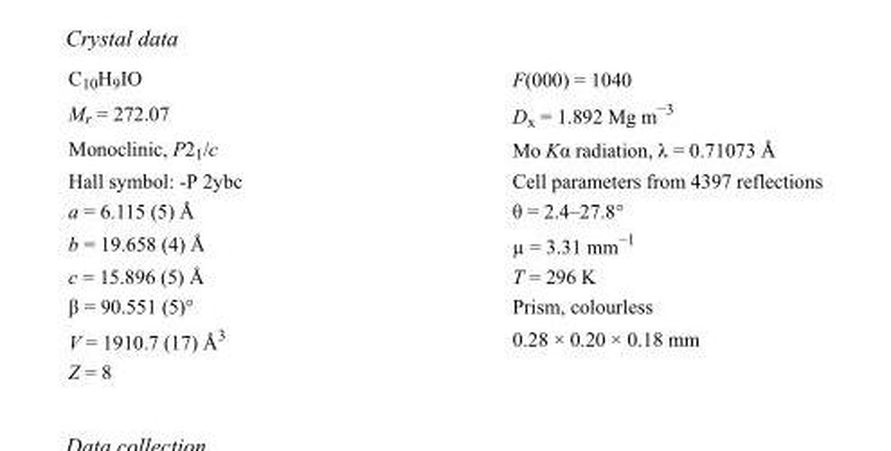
<table><tbody><tr><td>C<sub>10</sub>H<sub>9</sub>IO</td><td>F(000) = 1040</td></tr><tr><td>M<sub>r</sub> = 272.07</td><td>D<sub>x</sub> = 1.892 Mg m<sup>−3</sup></td></tr><tr><td>Monoclinic, P2<sub>1</sub>/c</td><td>Mo Kα radiation, λ = 0.71073 Å</td></tr><tr><td>Hall symbol: -P 2ybc</td><td>Cell parameters from 4397 reflections</td></tr><tr><td>a = 6.115 (5) Å</td><td>θ = 2.4–27.8°</td></tr><tr><td>b = 19.658 (4) Å</td><td>µ = 3.31 mm<sup>−1</sup></td></tr><tr><td>c = 15.896 (5) Å</td><td>T = 296 K</td></tr><tr><td>β = 90.551 (5)°</td><td>Prism, colourless</td></tr><tr><td>V = 1910.7 (17) Å<sup>3</sup></td><td>0.28 × 0.20 × 0.18 mm</td></tr><tr><td>Z = 8</td><td></td></tr></tbody></table>